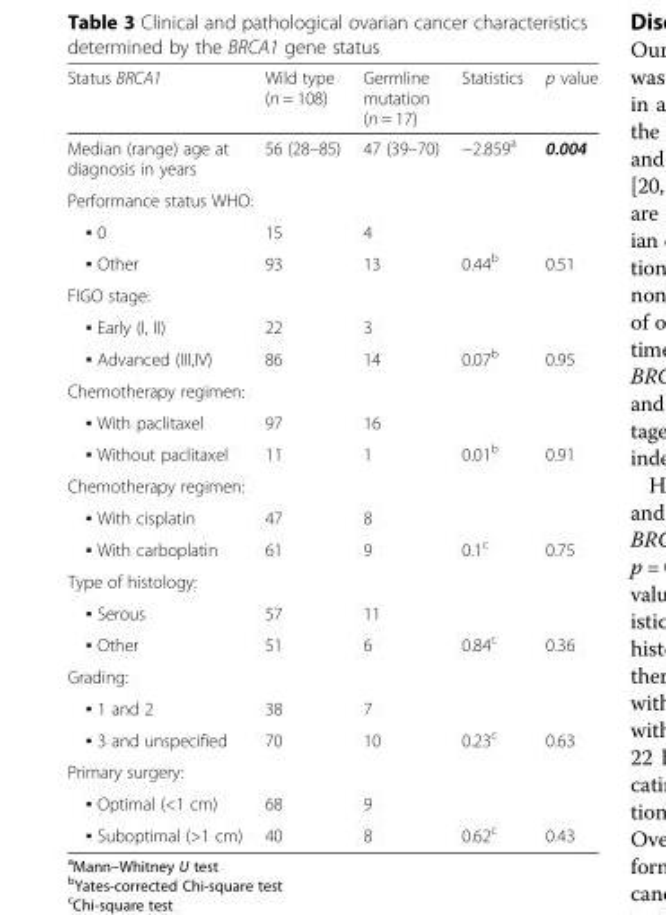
<table><thead><tr><td>Status BRCA1</td><td>Wild type (n = 108)</td><td>Germline mutation (n = 17)</td><td>Statistics</td><td>p value</td></tr></thead><tbody><tr><td>Median (range) age at diagnosis in years</td><td>56 (28–85)</td><td>47 (39–70)</td><td>−2.859<sup>a</sup></td><td>0.004</td></tr><tr><td colspan="5">Performance status WHO:</td></tr><tr><td>▪ 0</td><td>15</td><td>4</td><td></td><td></td></tr><tr><td>▪ Other</td><td>93</td><td>13</td><td>0.44<sup>b</sup></td><td>0.51</td></tr><tr><td colspan="5">FIGO stage:</td></tr><tr><td>▪ Early (I, II)</td><td>22</td><td>3</td><td></td><td></td></tr><tr><td>▪ Advanced (III,IV)</td><td>86</td><td>14</td><td>0.07<sup>b</sup></td><td>0.95</td></tr><tr><td colspan="5">Chemotherapy regimen:</td></tr><tr><td>▪ With paclitaxel</td><td>97</td><td>16</td><td></td><td></td></tr><tr><td>▪ Without paclitaxel</td><td>11</td><td>1</td><td>0.01<sup>b</sup></td><td>0.91</td></tr><tr><td colspan="5">Chemotherapy regimen:</td></tr><tr><td>▪ With cisplatin</td><td>47</td><td>8</td><td></td><td></td></tr><tr><td>▪ With carboplatin</td><td>61</td><td>9</td><td>0.1<sup>c</sup></td><td>0.75</td></tr><tr><td colspan="5">Type of histology:</td></tr><tr><td>▪ Serous</td><td>57</td><td>11</td><td></td><td></td></tr><tr><td>▪ Other</td><td>51</td><td>6</td><td>0.84<sup>c</sup></td><td>0.36</td></tr><tr><td colspan="5">Grading:</td></tr><tr><td>▪ 1 and 2</td><td>38</td><td>7</td><td></td><td></td></tr><tr><td>▪ 3 and unspecified</td><td>70</td><td>10</td><td>0.23<sup>c</sup></td><td>0.63</td></tr><tr><td colspan="5">Primary surgery:</td></tr><tr><td>▪ Optimal (&lt;1 cm)</td><td>68</td><td>9</td><td></td><td></td></tr><tr><td>▪ Suboptimal (&gt;1 cm)</td><td>40</td><td>8</td><td>0.62<sup>c</sup></td><td>0.43</td></tr></tbody></table>